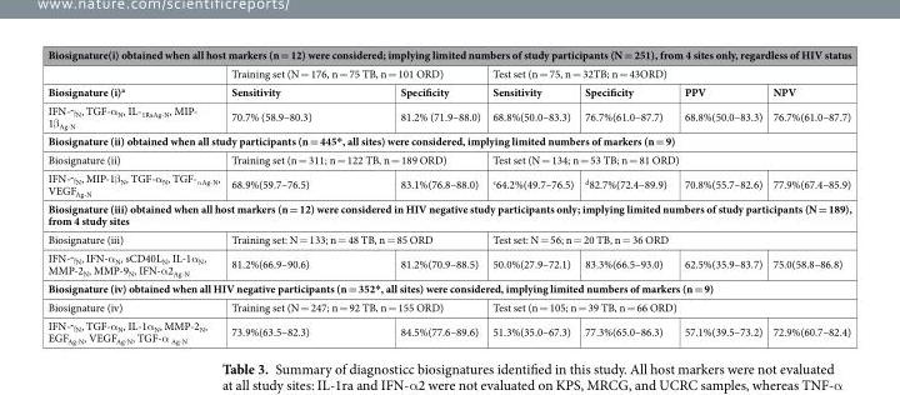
<table><thead><tr><td colspan="7">Biosignature(i) obtained when all host markers (n = 12) were considered; implying limited numbers of study participants (N = 251), from 4 sites only, regardless of HIV status</td></tr><tr><td rowspan="2">Biosignature (i)<sup>a</sup></td><td colspan="2">Training set (N = 176, n = 75 TB, n = 101 ORD)</td><td colspan="4">Test set (n = 75, n = 32TB; n = 43ORD)</td></tr><tr><td>Sensitivity</td><td>Specificity</td><td>Sensitivity</td><td>Specificity</td><td>PPV</td><td>NPV</td></tr></thead><tbody><tr><td>IFN-γ<sub>N</sub>, TGF-α<sub>N</sub>, IL-<sub>1RaAg-N</sub>, MIP- 1β<sub>Ag-N</sub></td><td>70.7% (58.9–80.3)</td><td>81.2% (71.9–88.0)</td><td>68.8%(50.0–83.3)</td><td>76.7%(61.0–87.7)</td><td>68.8%(50.0–83.3)</td><td>76.7%(61.0–87.7)</td></tr><tr><td colspan="7">Biosignature (ii) obtained when all study participants (n = 445*, all sites) were considered, implying limited numbers of markers (n = 9)</td></tr><tr><td>Biosignature (ii)</td><td colspan="2">Training set (n = 311; n = 122 TB, n = 189 ORD)</td><td colspan="4">Test set (N = 134; n = 53 TB; n = 81 ORD)</td></tr><tr><td>IFN-γ<sub>N</sub>, MIP-1β<sub>N</sub>, TGF-α<sub>N</sub>, TGF-<sub>αAg-N</sub>, VEGF<sub>Ag-N</sub></td><td>68.9%(59.7–76.5)</td><td>83.1%(76.8–88.0)</td><td><sup>c</sup>64.2%(49.7–76.5)</td><td><sup>d</sup>82.7%(72.4–89.9)</td><td>70.8%(55.7–82.6)</td><td>77.9%(67.4–85.9)</td></tr><tr><td colspan="7">Biosignature (iii) obtained when all host markers (n = 12) were considered in HIV negative study participants only; implying limited numbers of study participants (N = 189), from 4 study sites</td></tr><tr><td>Biosignature (iii)</td><td colspan="2">Training set: N = 133; n = 48 TB, n = 85 ORD</td><td colspan="4">Test set: N = 56; n = 20 TB, n = 36 ORD</td></tr><tr><td>IFN-γ<sub>N</sub>, IFN-α<sub>N</sub>, sCD40L<sub>N</sub>, IL-1α<sub>N</sub>, MMP-2<sub>N</sub>, MMP-9<sub>N</sub>, IFN-α2<sub>Ag-N</sub></td><td>81.2%(66.9–90.6)</td><td>81.2%(70.9–88.5)</td><td>50.0%(27.9–72.1)</td><td>83.3%(66.5–93.0)</td><td>62.5%(35.9–83.7)</td><td>75.0(58.8–86.8)</td></tr><tr><td colspan="7">Biosignature (iv) obtained when all HIV negative participants (n = 352*, all sites) were considered, implying limited numbers of markers (n = 9)</td></tr><tr><td>Biosignature (iv)</td><td colspan="2">Training set (N = 247; n = 92 TB, n = 155 ORD)</td><td colspan="4">Test set (n = 105; n = 39 TB, n = 66 ORD)</td></tr><tr><td>IFN-γ<sub>N</sub>, TGF-α<sub>N</sub>, IL-1α<sub>N</sub>, MMP-2<sub>N</sub>, EGF<sub>Ag-N</sub>, VEGF<sub>Ag-N</sub>, TGF-α <sub>Ag-N</sub></td><td>73.9%(63.5–82.3)</td><td>84.5%(77.6–89.6)</td><td>51.3%(35.0–67.3)</td><td>77.3%(65.0–86.3)</td><td>57.1%(39.5–73.2)</td><td>72.9%(60.7–82.4)</td></tr></tbody></table>